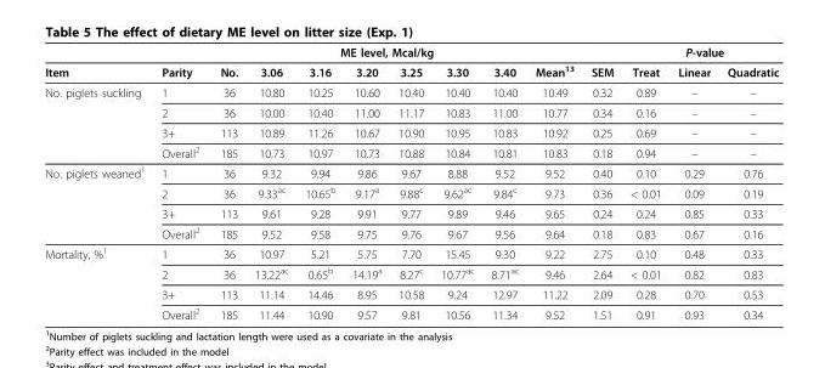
<table><thead><tr><td rowspan="2">Item</td><td rowspan="2">Parity</td><td rowspan="2">No.</td><td colspan="6">ME level, Mcal/kg</td><td rowspan="2">Mean<sup>13</sup></td><td rowspan="2">SEM</td><td colspan="3">P-value</td></tr><tr><td>3.06</td><td>3.16</td><td>3.20</td><td>3.25</td><td>3.30</td><td>3.40</td><td>Treat</td><td>Linear</td><td>Quadratic</td></tr></thead><tbody><tr><td rowspan="4">No. piglets suckling</td><td>1</td><td>36</td><td>10.80</td><td>10.25</td><td>10.60</td><td>10.40</td><td>10.40</td><td>10.40</td><td>10.49</td><td>0.32</td><td>0.89</td><td>–</td><td>–</td></tr><tr><td>2</td><td>36</td><td>10.00</td><td>10.40</td><td>11.00</td><td>11.17</td><td>10.83</td><td>11.00</td><td>10.77</td><td>0.34</td><td>0.16</td><td>–</td><td>–</td></tr><tr><td>3+</td><td>113</td><td>10.89</td><td>11.26</td><td>10.67</td><td>10.90</td><td>10.95</td><td>10.83</td><td>10.92</td><td>0.25</td><td>0.69</td><td>–</td><td>–</td></tr><tr><td>Overall<sup>2</sup></td><td>185</td><td>10.73</td><td>10.97</td><td>10.73</td><td>10.88</td><td>10.84</td><td>10.81</td><td>10.83</td><td>0.18</td><td>0.94</td><td>–</td><td>–</td></tr><tr><td rowspan="4">No. piglets weaned<sup>1</sup></td><td>1</td><td>36</td><td>9.32</td><td>9.94</td><td>9.86</td><td>9.67</td><td>8.88</td><td>9.52</td><td>9.52</td><td>0.40</td><td>0.10</td><td>0.29</td><td>0.76</td></tr><tr><td>2</td><td>36</td><td>9.33<sup>ac</sup></td><td>10.65<sup>b</sup></td><td>9.17<sup>a</sup></td><td>9.88<sup>c</sup></td><td>9.62<sup>ac</sup></td><td>9.84<sup>c</sup></td><td>9.73</td><td>0.36</td><td>&lt; 0.01</td><td>0.09</td><td>0.19</td></tr><tr><td>3+</td><td>113</td><td>9.61</td><td>9.28</td><td>9.91</td><td>9.77</td><td>9.89</td><td>9.46</td><td>9.65</td><td>0.24</td><td>0.24</td><td>0.85</td><td>0.33</td></tr><tr><td>Overall<sup>2</sup></td><td>185</td><td>9.52</td><td>9.58</td><td>9.75</td><td>9.76</td><td>9.67</td><td>9.56</td><td>9.64</td><td>0.18</td><td>0.83</td><td>0.67</td><td>0.16</td></tr><tr><td rowspan="4">Mortality, %<sup>1</sup></td><td>1</td><td>36</td><td>10.97</td><td>5.21</td><td>5.75</td><td>7.70</td><td>15.45</td><td>9.30</td><td>9.22</td><td>2.75</td><td>0.10</td><td>0.48</td><td>0.33</td></tr><tr><td>2</td><td>36</td><td>13.22<sup>ac</sup></td><td>0.65<sup>b</sup></td><td>14.19<sup>a</sup></td><td>8.27<sup>c</sup></td><td>10.77<sup>ac</sup></td><td>8.71<sup>ac</sup></td><td>9.46</td><td>2.64</td><td>&lt; 0.01</td><td>0.82</td><td>0.83</td></tr><tr><td>3+</td><td>113</td><td>11.14</td><td>14.46</td><td>8.95</td><td>10.58</td><td>9.24</td><td>12.97</td><td>11.22</td><td>2.09</td><td>0.28</td><td>0.70</td><td>0.53</td></tr><tr><td>Overall<sup>2</sup></td><td>185</td><td>11.44</td><td>10.90</td><td>9.57</td><td>9.81</td><td>10.56</td><td>11.34</td><td>9.52</td><td>1.51</td><td>0.91</td><td>0.93</td><td>0.34</td></tr></tbody></table>